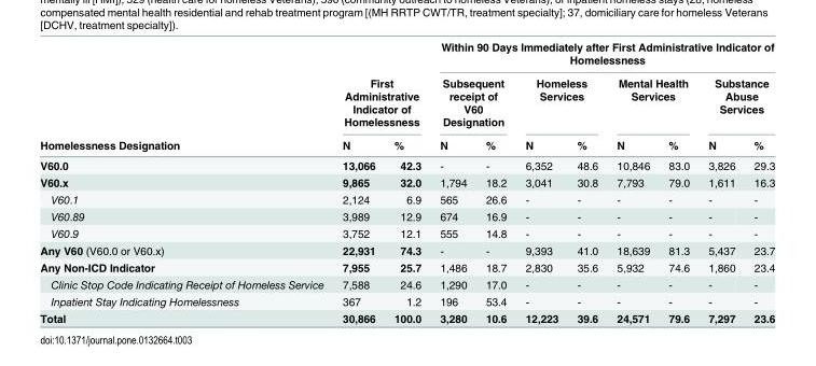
<table><thead><tr><td rowspan="3">Homelessness Designation</td><td></td><td></td><td colspan="8">Within 90 Days Immediately after First Administrative Indicator of Homelessness</td></tr><tr><td colspan="2">First Administrative Indicator of Homelessness</td><td colspan="2">Subsequent receipt of V60 Designation</td><td colspan="2">Homeless Services</td><td colspan="2">Mental Health Services</td><td colspan="2">Substance Abuse Services</td></tr><tr><td>N</td><td>%</td><td>N</td><td>%</td><td>N</td><td>%</td><td>N</td><td>%</td><td>N</td><td>%</td></tr></thead><tbody><tr><td>V60.0</td><td>13,066</td><td>42.3</td><td>-</td><td>-</td><td>6,352</td><td>48.6</td><td>10,846</td><td>83.0</td><td>3,826</td><td>29.3</td></tr><tr><td>V60.x</td><td>9,865</td><td>32.0</td><td>1,794</td><td>18.2</td><td>3,041</td><td>30.8</td><td>7,793</td><td>79.0</td><td>1,611</td><td>16.3</td></tr><tr><td>V60.1</td><td>2,124</td><td>6.9</td><td>565</td><td>26.6</td><td>-</td><td>-</td><td>-</td><td>-</td><td>-</td><td>-</td></tr><tr><td>V60.89</td><td>3,989</td><td>12.9</td><td>674</td><td>16.9</td><td>-</td><td>-</td><td>-</td><td>-</td><td>-</td><td>-</td></tr><tr><td>V60.9</td><td>3,752</td><td>12.1</td><td>555</td><td>14.8</td><td>-</td><td>-</td><td>-</td><td>-</td><td>-</td><td>-</td></tr><tr><td>Any V60 (V60.0 or V60.x)</td><td>22,931</td><td>74.3</td><td>-</td><td>-</td><td>9,393</td><td>41.0</td><td>18,639</td><td>81.3</td><td>5,437</td><td>23.7</td></tr><tr><td>Any Non-ICD Indicator</td><td>7,955</td><td>25.7</td><td>1,486</td><td>18.7</td><td>2,830</td><td>35.6</td><td>5,932</td><td>74.6</td><td>1,860</td><td>23.4</td></tr><tr><td>Clinic Stop Code Indicating Receipt of Homeless Service</td><td>7,588</td><td>24.6</td><td>1,290</td><td>17.0</td><td>-</td><td>-</td><td>-</td><td>-</td><td>-</td><td>-</td></tr><tr><td>Inpatient Stay Indicating Homelessness</td><td>367</td><td>1.2</td><td>196</td><td>53.4</td><td>-</td><td>-</td><td>-</td><td>-</td><td>-</td><td>-</td></tr><tr><td>Total</td><td>30,866</td><td>100.0</td><td>3,280</td><td>10.6</td><td>12,223</td><td>39.6</td><td>24,571</td><td>79.6</td><td>7,297</td><td>23.6</td></tr></tbody></table>